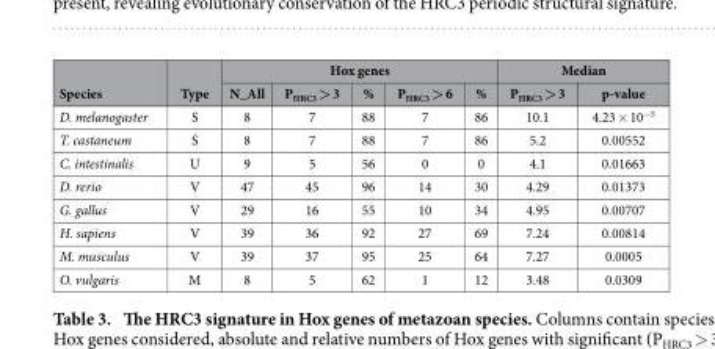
<table><thead><tr><td rowspan="2">Species</td><td rowspan="2">Type</td><td colspan="5">Hox genes</td><td colspan="2">Median</td></tr><tr><td>N_All</td><td>P<sub>HRC3</sub> &gt; 3</td><td>%</td><td>P<sub>HRC3</sub> &gt; 6</td><td>%</td><td>P<sub>HRC3</sub> &gt; 3</td><td>p-value</td></tr></thead><tbody><tr><td>D. melanogaster</td><td>S</td><td>8</td><td>7</td><td>88</td><td>7</td><td>86</td><td>10.1</td><td>4.23 × 10<sup>−5</sup></td></tr><tr><td>T. castaneum</td><td>S</td><td>8</td><td>7</td><td>88</td><td>7</td><td>86</td><td>5.2</td><td>0.00552</td></tr><tr><td>C. intestinalis</td><td>U</td><td>9</td><td>5</td><td>56</td><td>0</td><td>0</td><td>4.1</td><td>0.01663</td></tr><tr><td>D. rerio</td><td>V</td><td>47</td><td>45</td><td>96</td><td>14</td><td>30</td><td>4.29</td><td>0.01373</td></tr><tr><td>G. gallus</td><td>V</td><td>29</td><td>16</td><td>55</td><td>10</td><td>34</td><td>4.95</td><td>0.00707</td></tr><tr><td>H. sapiens</td><td>V</td><td>39</td><td>36</td><td>92</td><td>27</td><td>69</td><td>7.24</td><td>0.00814</td></tr><tr><td>M. musculus</td><td>V</td><td>39</td><td>37</td><td>95</td><td>25</td><td>64</td><td>7.27</td><td>0.0005</td></tr><tr><td>O. vulgaris</td><td>M</td><td>8</td><td>5</td><td>62</td><td>1</td><td>12</td><td>3.48</td><td>0.0309</td></tr></tbody></table>